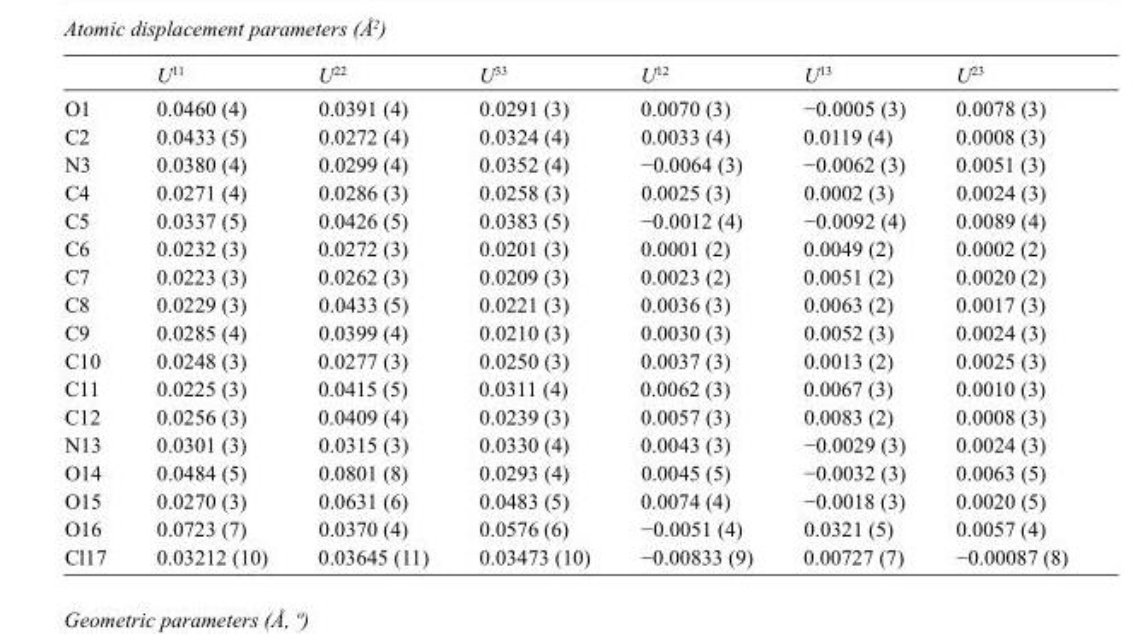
<table><thead><tr><td></td><td>U<sup>11</sup></td><td>U<sup>22</sup></td><td>U<sup>33</sup></td><td>U<sup>12</sup></td><td>U<sup>13</sup></td><td>U<sup>23</sup></td></tr></thead><tbody><tr><td>O1</td><td>0.0460 (4)</td><td>0.0391 (4)</td><td>0.0291 (3)</td><td>0.0070 (3)</td><td>−0.0005 (3)</td><td>0.0078 (3)</td></tr><tr><td>C2</td><td>0.0433 (5)</td><td>0.0272 (4)</td><td>0.0324 (4)</td><td>0.0033 (4)</td><td>0.0119 (4)</td><td>0.0008 (3)</td></tr><tr><td>N3</td><td>0.0380 (4)</td><td>0.0299 (4)</td><td>0.0352 (4)</td><td>−0.0064 (3)</td><td>−0.0062 (3)</td><td>0.0051 (3)</td></tr><tr><td>C4</td><td>0.0271 (4)</td><td>0.0286 (3)</td><td>0.0258 (3)</td><td>0.0025 (3)</td><td>0.0002 (3)</td><td>0.0024 (3)</td></tr><tr><td>C5</td><td>0.0337 (5)</td><td>0.0426 (5)</td><td>0.0383 (5)</td><td>−0.0012 (4)</td><td>−0.0092 (4)</td><td>0.0089 (4)</td></tr><tr><td>C6</td><td>0.0232 (3)</td><td>0.0272 (3)</td><td>0.0201 (3)</td><td>0.0001 (2)</td><td>0.0049 (2)</td><td>0.0002 (2)</td></tr><tr><td>C7</td><td>0.0223 (3)</td><td>0.0262 (3)</td><td>0.0209 (3)</td><td>0.0023 (2)</td><td>0.0051 (2)</td><td>0.0020 (2)</td></tr><tr><td>C8</td><td>0.0229 (3)</td><td>0.0433 (5)</td><td>0.0221 (3)</td><td>0.0036 (3)</td><td>0.0063 (2)</td><td>0.0017 (3)</td></tr><tr><td>C9</td><td>0.0285 (4)</td><td>0.0399 (4)</td><td>0.0210 (3)</td><td>0.0030 (3)</td><td>0.0052 (3)</td><td>0.0024 (3)</td></tr><tr><td>C10</td><td>0.0248 (3)</td><td>0.0277 (3)</td><td>0.0250 (3)</td><td>0.0037 (3)</td><td>0.0013 (2)</td><td>0.0025 (3)</td></tr><tr><td>C11</td><td>0.0225 (3)</td><td>0.0415 (5)</td><td>0.0311 (4)</td><td>0.0062 (3)</td><td>0.0067 (3)</td><td>0.0010 (3)</td></tr><tr><td>C12</td><td>0.0256 (3)</td><td>0.0409 (4)</td><td>0.0239 (3)</td><td>0.0057 (3)</td><td>0.0083 (2)</td><td>0.0008 (3)</td></tr><tr><td>N13</td><td>0.0301 (3)</td><td>0.0315 (3)</td><td>0.0330 (4)</td><td>0.0043 (3)</td><td>−0.0029 (3)</td><td>0.0024 (3)</td></tr><tr><td>O14</td><td>0.0484 (5)</td><td>0.0801 (8)</td><td>0.0293 (4)</td><td>0.0045 (5)</td><td>−0.0032 (3)</td><td>0.0063 (5)</td></tr><tr><td>O15</td><td>0.0270 (3)</td><td>0.0631 (6)</td><td>0.0483 (5)</td><td>0.0074 (4)</td><td>−0.0018 (3)</td><td>0.0020 (5)</td></tr><tr><td>O16</td><td>0.0723 (7)</td><td>0.0370 (4)</td><td>0.0576 (6)</td><td>−0.0051 (4)</td><td>0.0321 (5)</td><td>0.0057 (4)</td></tr><tr><td>Cl17</td><td>0.03212 (10)</td><td>0.03645 (11)</td><td>0.03473 (10)</td><td>−0.00833 (9)</td><td>0.00727 (7)</td><td>−0.00087 (8)</td></tr></tbody></table>